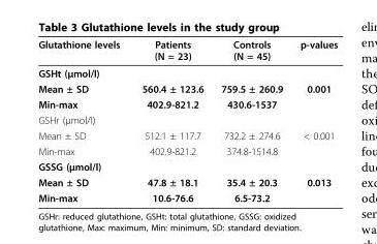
<table><thead><tr><td>Glutathione levels</td><td>Patients (N = 23)</td><td>Controls (N = 45)</td><td>p-values</td></tr></thead><tbody><tr><td colspan="4">GSHt (μmol/l)</td></tr><tr><td>Mean ± SD</td><td>560.4 ± 123.6</td><td>759.5 ± 260.9</td><td>0.001</td></tr><tr><td>Min-max</td><td>402.9-821.2</td><td>430.6-1537</td><td></td></tr><tr><td colspan="4">GSHr (μmol/l)</td></tr><tr><td>Mean ± SD</td><td>512.1 ± 117.7</td><td>732.2 ± 274.6</td><td>&lt; 0.001</td></tr><tr><td>Min-max</td><td>402.9-821.2</td><td>374.8-1514.8</td><td></td></tr><tr><td colspan="4">GSSG (μmol/l)</td></tr><tr><td>Mean ± SD</td><td>47.8 ± 18.1</td><td>35.4 ± 20.3</td><td>0.013</td></tr><tr><td>Min-max</td><td>10.6-76.6</td><td>6.5-73.2</td><td></td></tr></tbody></table>